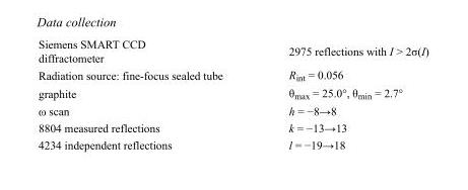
<table><tbody><tr><td>Siemens SMART CCD diffractometer</td><td>2975 reflections with I &gt; 2σ(I)</td></tr><tr><td>Radiation source: fine-focus sealed tube</td><td>R<sub>int</sub> = 0.056</td></tr><tr><td>graphite</td><td>θ<sub>max</sub> = 25.0°, θ<sub>min</sub> = 2.7°</td></tr><tr><td>ω scan</td><td>h = −8→8</td></tr><tr><td>8804 measured reflections</td><td>k = −13→13</td></tr><tr><td>4234 independent reflections</td><td>l = −19→18</td></tr></tbody></table>